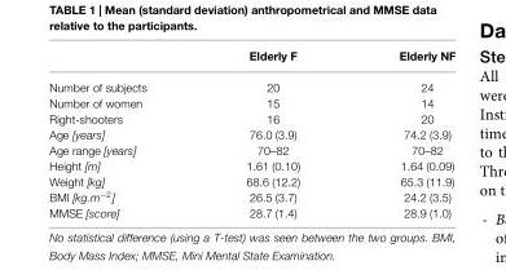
<table><thead><tr><td></td><td>Elderly F</td><td>Elderly NF</td></tr></thead><tbody><tr><td>Number of subjects</td><td>20</td><td>24</td></tr><tr><td>Number of women</td><td>15</td><td>14</td></tr><tr><td>Right-shooters</td><td>16</td><td>20</td></tr><tr><td>Age [years]</td><td>76.0 (3.9)</td><td>74.2 (3.9)</td></tr><tr><td>Age range [years]</td><td>70–82</td><td>70–82</td></tr><tr><td>Height [m]</td><td>1.61 (0.10)</td><td>1.64 (0.09)</td></tr><tr><td>Weight [kg]</td><td>68.6 (12.2)</td><td>65.3 (11.9)</td></tr><tr><td>BMI [kg.m<sup>−2</sup>]</td><td>26.5 (3.7)</td><td>24.2 (3.5)</td></tr><tr><td>MMSE [score]</td><td>28.7 (1.4)</td><td>28.9 (1.0)</td></tr></tbody></table>